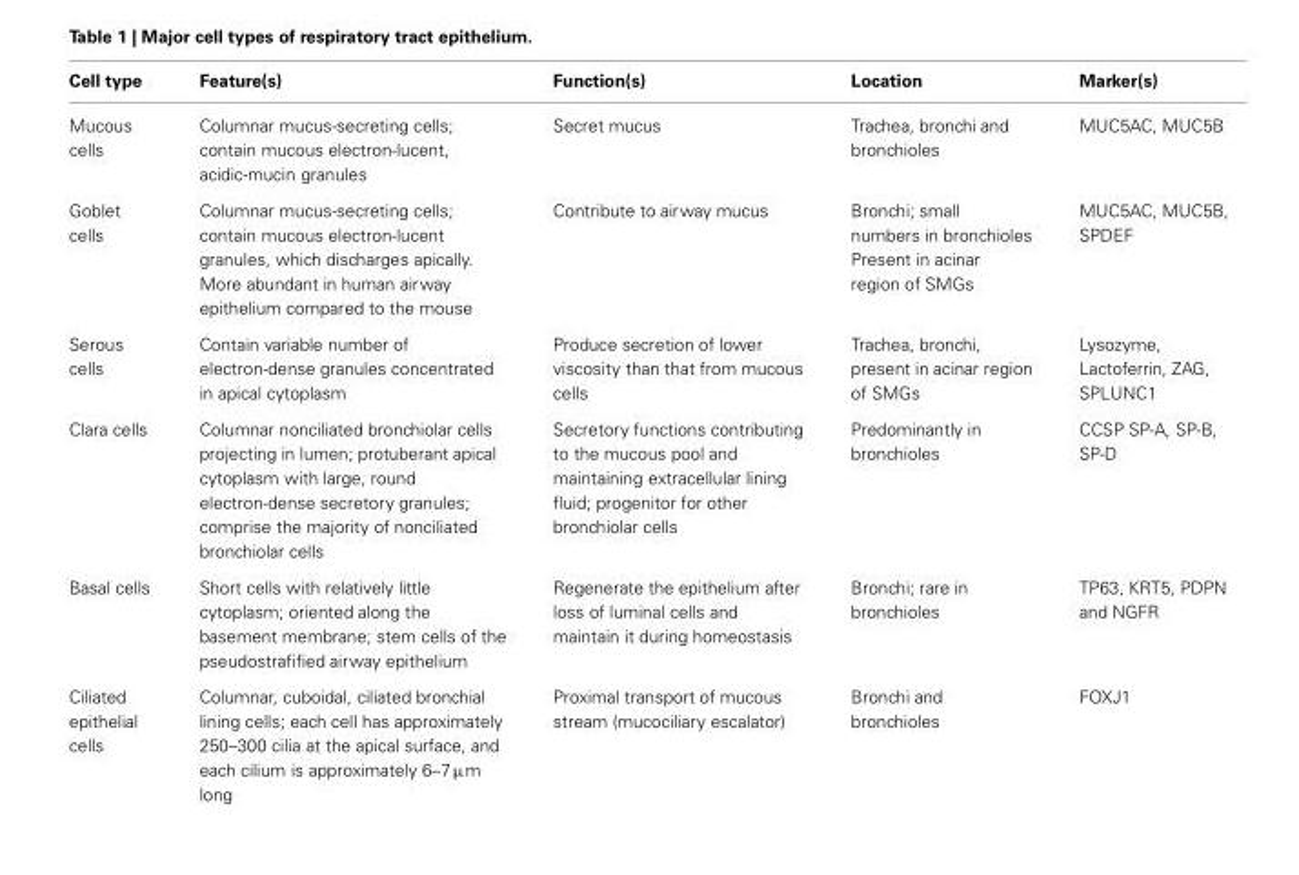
<table><thead><tr><td>Cell type</td><td>Feature(s)</td><td>Function(s)</td><td>Location</td><td>Marker(s)</td></tr></thead><tbody><tr><td>Mucous cells</td><td>Columnar mucus-secreting cells; contain mucous electron-lucent, acidic-mucin granules</td><td>Secret mucus</td><td>Trachea, bronchi and bronchioles</td><td>MUC5AC, MUC5B</td></tr><tr><td>Goblet cells</td><td>Columnar mucus-secreting cells; contain mucous electron-lucent granules, which discharges apically. More abundant in human airway epithelium compared to the mouse</td><td>Contribute to airway mucus</td><td>Bronchi; small numbers in bronchioles Present in acinar region of SMGs</td><td>MUC5AC, MUC5B, SPDEF</td></tr><tr><td>Serous cells</td><td>Contain variable number of electron-dense granules concentrated in apical cytoplasm</td><td>Produce secretion of lower viscosity than that from mucous cells</td><td>Trachea, bronchi, present in acinar region of SMGs</td><td>Lysozyme, Lactoferrin, ZAG, SPLUNC1</td></tr><tr><td>Clara cells</td><td>Columnar nonciliated bronchiolar cells projecting in lumen; protuberant apical cytoplasm with large, round electron-dense secretory granules; comprise the majority of nonciliated bronchiolar cells</td><td>Secretory functions contributing to the mucous pool and maintaining extracellular lining fluid; progenitor for other bronchiolar cells</td><td>Predominantly in bronchioles</td><td>CCSP SP-A, SP-B, SP-D</td></tr><tr><td>Basal cells</td><td>Short cells with relatively little cytoplasm; oriented along the basement membrane; stem cells of the pseudostrafified airway epithelium</td><td>Regenerate the epithelium after loss of luminal cells and maintain it during homeostasis</td><td>Bronchi; rare in bronchioles</td><td>TP63, KRT5, PDPN and NGFR</td></tr><tr><td>Ciliated epithelial cells</td><td>Columnar, cuboidal, ciliated bronchial lining cells; each cell has approximately 250–300 cilia at the apical surface, and each cilium is approximately 6–7 μm long</td><td>Proximal transport of mucous stream (mucociliary escalator)</td><td>Bronchi and bronchioles</td><td>FOXJ1</td></tr></tbody></table>